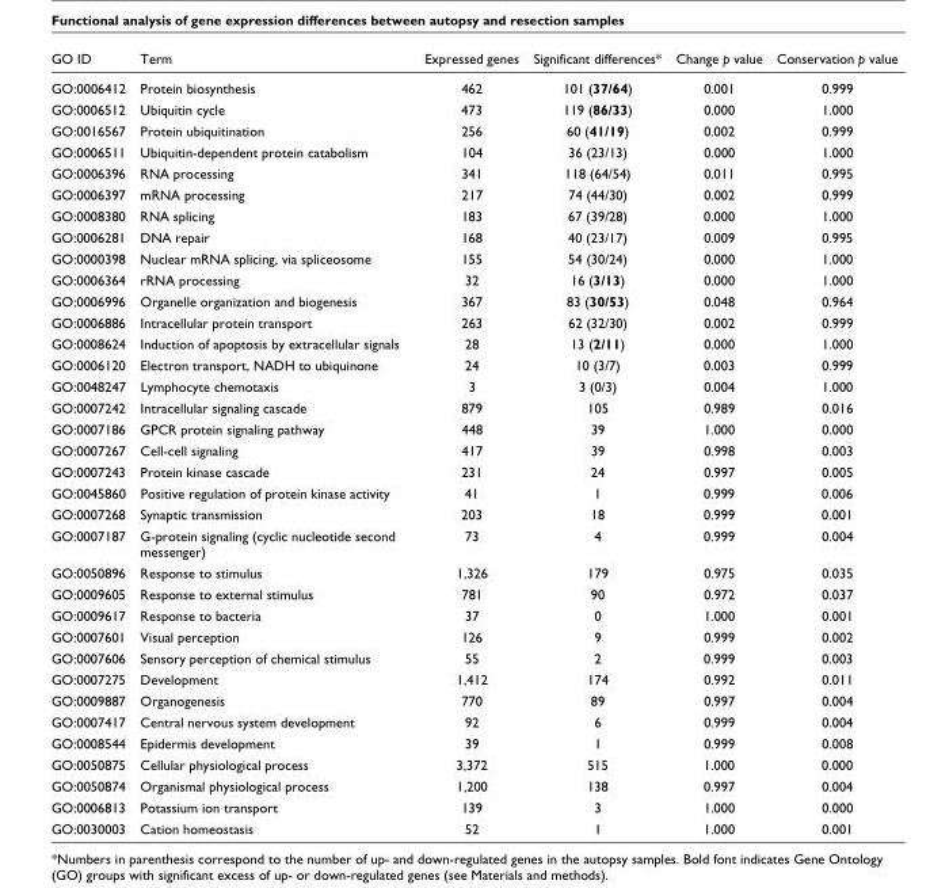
<table><thead><tr><td>GO ID</td><td>Term</td><td>Expressed genes</td><td>Significant differences*</td><td>Change p value</td><td>Conservation p value</td></tr></thead><tbody><tr><td>GO:0006412</td><td>Protein biosynthesis</td><td>462</td><td>101 (37/64)</td><td>0.001</td><td>0.999</td></tr><tr><td>GO:0006512</td><td>Ubiquitin cycle</td><td>473</td><td>119 (86/33)</td><td>0.000</td><td>1.000</td></tr><tr><td>GO:0016567</td><td>Protein ubiquitination</td><td>256</td><td>60 (41/19)</td><td>0.002</td><td>0.999</td></tr><tr><td>GO:0006511</td><td>Ubiquitin-dependent protein catabolism</td><td>104</td><td>36 (23/13)</td><td>0.000</td><td>1.000</td></tr><tr><td>GO:0006396</td><td>RNA processing</td><td>341</td><td>118 (64/54)</td><td>0.011</td><td>0.995</td></tr><tr><td>GO:0006397</td><td>mRNA processing</td><td>217</td><td>74 (44/30)</td><td>0.002</td><td>0.999</td></tr><tr><td>GO:0008380</td><td>RNA splicing</td><td>183</td><td>67 (39/28)</td><td>0.000</td><td>1.000</td></tr><tr><td>GO:0006281</td><td>DNA repair</td><td>168</td><td>40 (23/17)</td><td>0.009</td><td>0.995</td></tr><tr><td>GO:0000398</td><td>Nuclear mRNA splicing, via spliceosome</td><td>155</td><td>54 (30/24)</td><td>0.000</td><td>1.000</td></tr><tr><td>GO:0006364</td><td>rRNA processing</td><td>32</td><td>16 (3/13)</td><td>0.000</td><td>1.000</td></tr><tr><td>GO:0006996</td><td>Organelle organization and biogenesis</td><td>367</td><td>83 (30/53)</td><td>0.048</td><td>0.964</td></tr><tr><td>GO:0006886</td><td>Intracellular protein transport</td><td>263</td><td>62 (32/30)</td><td>0.002</td><td>0.999</td></tr><tr><td>GO:0008624</td><td>Induction of apoptosis by extracellular signals</td><td>28</td><td>13 (2/11)</td><td>0.000</td><td>1.000</td></tr><tr><td>GO:0006120</td><td>Electron transport, NADH to ubiquinone</td><td>24</td><td>10 (3/7)</td><td>0.003</td><td>0.999</td></tr><tr><td>GO:0048247</td><td>Lymphocyte chemotaxis</td><td>3</td><td>3 (0/3)</td><td>0.004</td><td>1.000</td></tr><tr><td>GO:0007242</td><td>Intracellular signaling cascade</td><td>879</td><td>105</td><td>0.989</td><td>0.016</td></tr><tr><td>GO:0007186</td><td>GPCR protein signaling pathway</td><td>448</td><td>39</td><td>1.000</td><td>0.000</td></tr><tr><td>GO:0007267</td><td>Cell-cell signaling</td><td>417</td><td>39</td><td>0.998</td><td>0.003</td></tr><tr><td>GO:0007243</td><td>Protein kinase cascade</td><td>231</td><td>24</td><td>0.997</td><td>0.005</td></tr><tr><td>GO:0045860</td><td>Positive regulation of protein kinase activity</td><td>41</td><td>1</td><td>0.999</td><td>0.006</td></tr><tr><td>GO:0007268</td><td>Synaptic transmission</td><td>203</td><td>18</td><td>0.999</td><td>0.001</td></tr><tr><td>GO:0007187</td><td>G-protein signaling (cyclic nucleotide second messenger)</td><td>73</td><td>4</td><td>0.999</td><td>0.004</td></tr><tr><td>GO:0050896</td><td>Response to stimulus</td><td>1,326</td><td>179</td><td>0.975</td><td>0.035</td></tr><tr><td>GO:0009605</td><td>Response to external stimulus</td><td>781</td><td>90</td><td>0.972</td><td>0.037</td></tr><tr><td>GO:0009617</td><td>Response to bacteria</td><td>37</td><td>0</td><td>1.000</td><td>0.001</td></tr><tr><td>GO:0007601</td><td>Visual perception</td><td>126</td><td>9</td><td>0.999</td><td>0.002</td></tr><tr><td>GO:0007606</td><td>Sensory perception of chemical stimulus</td><td>55</td><td>2</td><td>0.999</td><td>0.003</td></tr><tr><td>GO:0007275</td><td>Development</td><td>1,412</td><td>174</td><td>0.992</td><td>0.011</td></tr><tr><td>GO:0009887</td><td>Organogenesis</td><td>770</td><td>89</td><td>0.997</td><td>0.004</td></tr><tr><td>GO:0007417</td><td>Central nervous system development</td><td>92</td><td>6</td><td>0.999</td><td>0.004</td></tr><tr><td>GO:0008544</td><td>Epidermis development</td><td>39</td><td>1</td><td>0.999</td><td>0.008</td></tr><tr><td>GO:0050875</td><td>Cellular physiological process</td><td>3,372</td><td>515</td><td>1.000</td><td>0.000</td></tr><tr><td>GO:0050874</td><td>Organismal physiological process</td><td>1,200</td><td>138</td><td>0.997</td><td>0.004</td></tr><tr><td>GO:0006813</td><td>Potassium ion transport</td><td>139</td><td>3</td><td>1.000</td><td>0.000</td></tr><tr><td>GO:0030003</td><td>Cation homeostasis</td><td>52</td><td>1</td><td>1.000</td><td>0.001</td></tr></tbody></table>